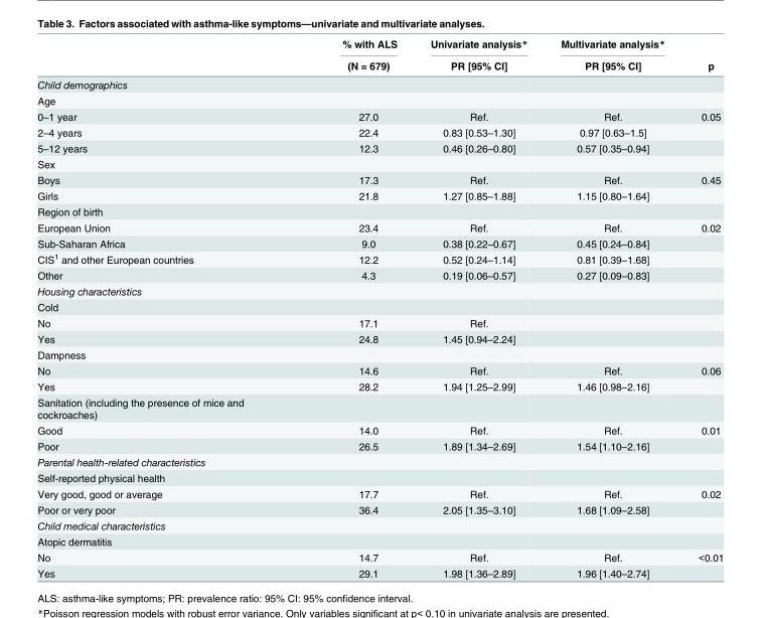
<table><thead><tr><td rowspan="2"></td><td rowspan="2">% with ALS (N = 679)</td><td rowspan="2">Univariate analysis* PR [95% CI]</td><td rowspan="2">Multivariate analysis* PR [95% CI]</td><td rowspan="2">p</td></tr><tr></tr></thead><tbody><tr><td colspan="5">Child demographics</td></tr><tr><td colspan="5">Age</td></tr><tr><td>0–1 year</td><td>27.0</td><td>Ref.</td><td>Ref.</td><td>0.05</td></tr><tr><td>2–4 years</td><td>22.4</td><td>0.83 [0.53–1.30]</td><td>0.97 [0.63–1.5]</td><td></td></tr><tr><td>5–12 years</td><td>12.3</td><td>0.46 [0.26–0.80]</td><td>0.57 [0.35–0.94]</td><td></td></tr><tr><td colspan="5">Sex</td></tr><tr><td>Boys</td><td>17.3</td><td>Ref.</td><td>Ref.</td><td>0.45</td></tr><tr><td>Girls</td><td>21.8</td><td>1.27 [0.85–1.88]</td><td>1.15 [0.80–1.64]</td><td></td></tr><tr><td colspan="5">Region of birth</td></tr><tr><td>European Union</td><td>23.4</td><td>Ref.</td><td>Ref.</td><td>0.02</td></tr><tr><td>Sub-Saharan Africa</td><td>9.0</td><td>0.38 [0.22–0.67]</td><td>0.45 [0.24–0.84]</td><td></td></tr><tr><td>CIS<sup>1</sup> and other European countries</td><td>12.2</td><td>0.52 [0.24–1.14]</td><td>0.81 [0.39–1.68]</td><td></td></tr><tr><td>Other</td><td>4.3</td><td>0.19 [0.06–0.57]</td><td>0.27 [0.09–0.83]</td><td></td></tr><tr><td colspan="5">Housing characteristics</td></tr><tr><td colspan="5">Cold</td></tr><tr><td>No</td><td>17.1</td><td>Ref.</td><td></td><td></td></tr><tr><td>Yes</td><td>24.8</td><td>1.45 [0.94–2.24]</td><td></td><td></td></tr><tr><td colspan="5">Dampness</td></tr><tr><td>No</td><td>14.6</td><td>Ref.</td><td>Ref.</td><td>0.06</td></tr><tr><td>Yes</td><td>28.2</td><td>1.94 [1.25–2.99]</td><td>1.46 [0.98–2.16]</td><td></td></tr><tr><td colspan="5">Sanitation (including the presence of mice and cockroaches)</td></tr><tr><td>Good</td><td>14.0</td><td>Ref.</td><td>Ref.</td><td>0.01</td></tr><tr><td>Poor</td><td>26.5</td><td>1.89 [1.34–2.69]</td><td>1.54 [1.10–2.16]</td><td></td></tr><tr><td colspan="5">Parental health-related characteristics</td></tr><tr><td colspan="5">Self-reported physical health</td></tr><tr><td>Very good, good or average</td><td>17.7</td><td>Ref.</td><td>Ref.</td><td>0.02</td></tr><tr><td>Poor or very poor</td><td>36.4</td><td>2.05 [1.35–3.10]</td><td>1.68 [1.09–2.58]</td><td></td></tr><tr><td colspan="5">Child medical characteristics</td></tr><tr><td colspan="5">Atopic dermatitis</td></tr><tr><td>No</td><td>14.7</td><td>Ref.</td><td>Ref.</td><td>&lt;0.01</td></tr><tr><td>Yes</td><td>29.1</td><td>1.98 [1.36–2.89]</td><td>1.96 [1.40–2.74]</td><td></td></tr></tbody></table>